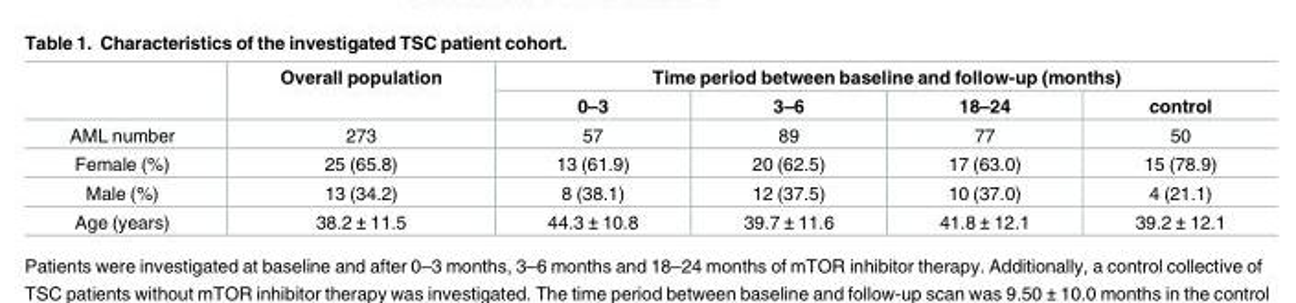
<table><thead><tr><td rowspan="2"></td><td rowspan="2">Overall population</td><td colspan="4">Time period between baseline and follow-up (months)</td></tr><tr><td>0–3</td><td>3–6</td><td>18–24</td><td>control</td></tr></thead><tbody><tr><td>AML number</td><td>273</td><td>57</td><td>89</td><td>77</td><td>50</td></tr><tr><td>Female (%)</td><td>25 (65.8)</td><td>13 (61.9)</td><td>20 (62.5)</td><td>17 (63.0)</td><td>15 (78.9)</td></tr><tr><td>Male (%)</td><td>13 (34.2)</td><td>8 (38.1)</td><td>12 (37.5)</td><td>10 (37.0)</td><td>4 (21.1)</td></tr><tr><td>Age (years)</td><td>38.2 ± 11.5</td><td>44.3 ± 10.8</td><td>39.7 ± 11.6</td><td>41.8 ± 12.1</td><td>39.2 ± 12.1</td></tr></tbody></table>